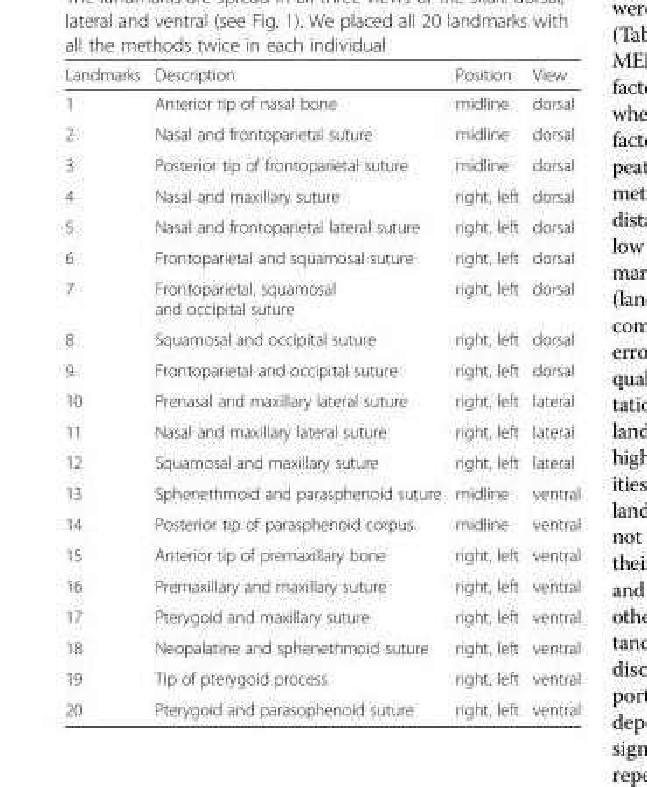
<table><thead><tr><td>Landmarks</td><td>Description</td><td>Position</td><td>View</td></tr></thead><tbody><tr><td>1</td><td>Anterior tip of nasal bone</td><td>midline</td><td>dorsal</td></tr><tr><td>2</td><td>Nasal and frontoparietal suture</td><td>midline</td><td>dorsal</td></tr><tr><td>3</td><td>Posterior tip of frontoparietal suture</td><td>midline</td><td>dorsal</td></tr><tr><td>4</td><td>Nasal and maxillary suture</td><td>right, left</td><td>dorsal</td></tr><tr><td>5</td><td>Nasal and frontoparietal lateral suture</td><td>right, left</td><td>dorsal</td></tr><tr><td>6</td><td>Frontoparietal and squamosal suture</td><td>right, left</td><td>dorsal</td></tr><tr><td>7</td><td>Frontoparietal, squamosal and occipital suture</td><td>right, left</td><td>dorsal</td></tr><tr><td>8</td><td>Squamosal and occipital suture</td><td>right, left</td><td>dorsal</td></tr><tr><td>9</td><td>Frontoparietal and occipital suture</td><td>right, left</td><td>dorsal</td></tr><tr><td>10</td><td>Prenasal and maxillary lateral suture</td><td>right, left</td><td>lateral</td></tr><tr><td>11</td><td>Nasal and maxillary lateral suture</td><td>right, left</td><td>lateral</td></tr><tr><td>12</td><td>Squamosal and maxillary suture</td><td>right, left</td><td>lateral</td></tr><tr><td>13</td><td>Sphenethmoid and parasphenoid suture</td><td>midline</td><td>ventral</td></tr><tr><td>14</td><td>Posterior tip of parasphenoid corpus</td><td>midline</td><td>ventral</td></tr><tr><td>15</td><td>Anterior tip of premaxillary bone</td><td>right, left</td><td>ventral</td></tr><tr><td>16</td><td>Premaxillary and maxillary suture</td><td>right, left</td><td>ventral</td></tr><tr><td>17</td><td>Pterygoid and maxillary suture</td><td>right, left</td><td>ventral</td></tr><tr><td>18</td><td>Neopalatine and sphenethmoid suture</td><td>right, left</td><td>ventral</td></tr><tr><td>19</td><td>Tip of pterygoid process</td><td>right, left</td><td>ventral</td></tr><tr><td>20</td><td>Pterygoid and parasophenoid suture</td><td>right, left</td><td>ventral</td></tr></tbody></table>